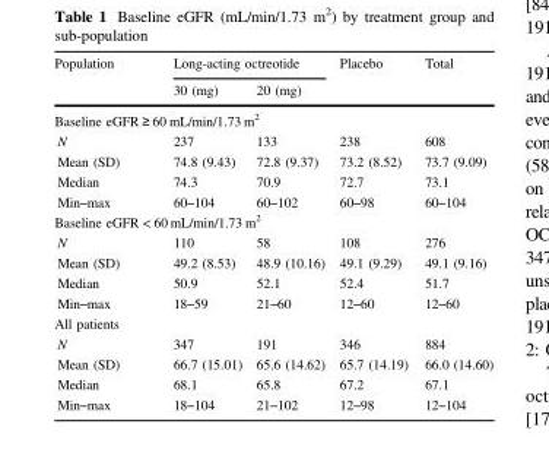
<table><thead><tr><td rowspan="2">Population</td><td colspan="2">Long-acting octreotide</td><td rowspan="2">Placebo</td><td rowspan="2">Total</td></tr><tr><td>30 (mg)</td><td>20 (mg)</td></tr></thead><tbody><tr><td colspan="5">Baseline eGFR ≥ 60 mL/min/1.73 m<sup>2</sup></td></tr><tr><td>N</td><td>237</td><td>133</td><td>238</td><td>608</td></tr><tr><td>Mean (SD)</td><td>74.8 (9.43)</td><td>72.8 (9.37)</td><td>73.2 (8.52)</td><td>73.7 (9.09)</td></tr><tr><td>Median</td><td>74.3</td><td>70.9</td><td>72.7</td><td>73.1</td></tr><tr><td>Min–max</td><td>60–104</td><td>60–102</td><td>60–98</td><td>60–104</td></tr><tr><td colspan="5">Baseline eGFR &lt; 60 mL/min/1.73 m<sup>2</sup></td></tr><tr><td>N</td><td>110</td><td>58</td><td>108</td><td>276</td></tr><tr><td>Mean (SD)</td><td>49.2 (8.53)</td><td>48.9 (10.16)</td><td>49.1 (9.29)</td><td>49.1 (9.16)</td></tr><tr><td>Median</td><td>50.9</td><td>52.1</td><td>52.4</td><td>51.7</td></tr><tr><td>Min–max</td><td>18–59</td><td>21–60</td><td>12–60</td><td>12–60</td></tr><tr><td colspan="5">All patients</td></tr><tr><td>N</td><td>347</td><td>191</td><td>346</td><td>884</td></tr><tr><td>Mean (SD)</td><td>66.7 (15.01)</td><td>65.6 (14.62)</td><td>65.7 (14.19)</td><td>66.0 (14.60)</td></tr><tr><td>Median</td><td>68.1</td><td>65.8</td><td>67.2</td><td>67.1</td></tr><tr><td>Min–max</td><td>18–104</td><td>21–102</td><td>12–98</td><td>12–104</td></tr></tbody></table>